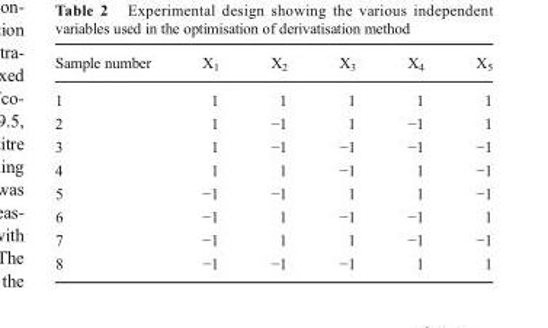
<table><thead><tr><td>Sample number</td><td>X<sub>1</sub></td><td>X<sub>2</sub></td><td>X<sub>3</sub></td><td>X<sub>4</sub></td><td>X<sub>5</sub></td></tr></thead><tbody><tr><td>1</td><td>1</td><td>1</td><td>1</td><td>1</td><td>1</td></tr><tr><td>2</td><td>1</td><td>−1</td><td>1</td><td>−1</td><td>1</td></tr><tr><td>3</td><td>1</td><td>−1</td><td>−1</td><td>−1</td><td>−1</td></tr><tr><td>4</td><td>1</td><td>1</td><td>−1</td><td>1</td><td>−1</td></tr><tr><td>5</td><td>−1</td><td>−1</td><td>1</td><td>1</td><td>−1</td></tr><tr><td>6</td><td>−1</td><td>1</td><td>−1</td><td>−1</td><td>1</td></tr><tr><td>7</td><td>−1</td><td>1</td><td>1</td><td>−1</td><td>−1</td></tr><tr><td>8</td><td>−1</td><td>−1</td><td>−1</td><td>1</td><td>1</td></tr></tbody></table>